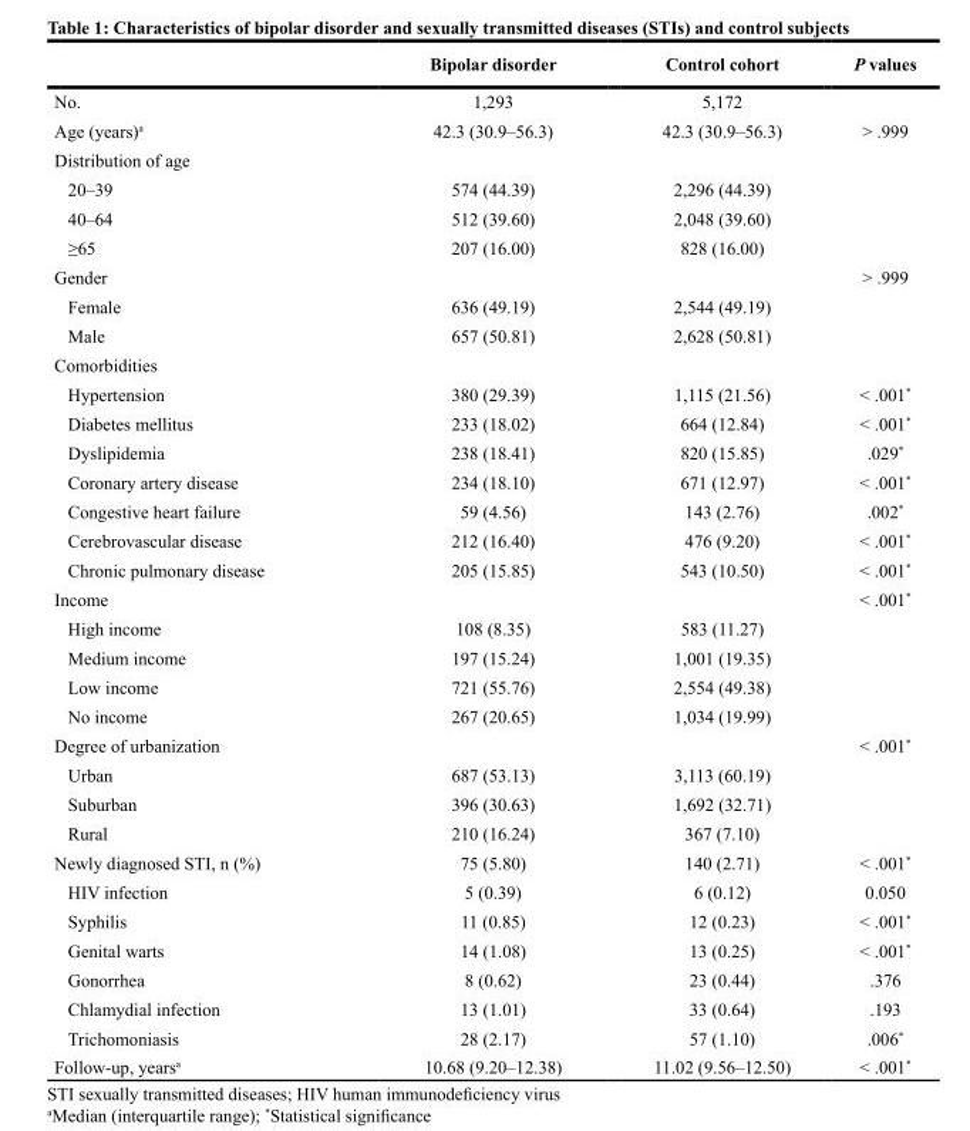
<table><thead><tr><td></td><td>Bipolar disorder</td><td>Control cohort</td><td>P values</td></tr></thead><tbody><tr><td>No.</td><td>1,293</td><td>5,172</td><td></td></tr><tr><td>Age (years)<sup>a</sup></td><td>42.3 (30.9–56.3)</td><td>42.3 (30.9–56.3)</td><td>&gt; .999</td></tr><tr><td colspan="4">Distribution of age</td></tr><tr><td>20–39</td><td>574 (44.39)</td><td>2,296 (44.39)</td><td></td></tr><tr><td>40–64</td><td>512 (39.60)</td><td>2,048 (39.60)</td><td></td></tr><tr><td>≥65</td><td>207 (16.00)</td><td>828 (16.00)</td><td></td></tr><tr><td>Gender</td><td></td><td></td><td>&gt; .999</td></tr><tr><td>Female</td><td>636 (49.19)</td><td>2,544 (49.19)</td><td></td></tr><tr><td>Male</td><td>657 (50.81)</td><td>2,628 (50.81)</td><td></td></tr><tr><td colspan="4">Comorbidities</td></tr><tr><td>Hypertension</td><td>380 (29.39)</td><td>1,115 (21.56)</td><td>&lt; .001*</td></tr><tr><td>Diabetes mellitus</td><td>233 (18.02)</td><td>664 (12.84)</td><td>&lt; .001*</td></tr><tr><td>Dyslipidemia</td><td>238 (18.41)</td><td>820 (15.85)</td><td>.029*</td></tr><tr><td>Coronary artery disease</td><td>234 (18.10)</td><td>671 (12.97)</td><td>&lt; .001*</td></tr><tr><td>Congestive heart failure</td><td>59 (4.56)</td><td>143 (2.76)</td><td>.002*</td></tr><tr><td>Cerebrovascular disease</td><td>212 (16.40)</td><td>476 (9.20)</td><td>&lt; .001*</td></tr><tr><td>Chronic pulmonary disease</td><td>205 (15.85)</td><td>543 (10.50)</td><td>&lt; .001*</td></tr><tr><td>Income</td><td></td><td></td><td>&lt; .001*</td></tr><tr><td>High income</td><td>108 (8.35)</td><td>583 (11.27)</td><td></td></tr><tr><td>Medium income</td><td>197 (15.24)</td><td>1,001 (19.35)</td><td></td></tr><tr><td>Low income</td><td>721 (55.76)</td><td>2,554 (49.38)</td><td></td></tr><tr><td>No income</td><td>267 (20.65)</td><td>1,034 (19.99)</td><td></td></tr><tr><td>Degree of urbanization</td><td></td><td></td><td>&lt; .001*</td></tr><tr><td>Urban</td><td>687 (53.13)</td><td>3,113 (60.19)</td><td></td></tr><tr><td>Suburban</td><td>396 (30.63)</td><td>1,692 (32.71)</td><td></td></tr><tr><td>Rural</td><td>210 (16.24)</td><td>367 (7.10)</td><td></td></tr><tr><td>Newly diagnosed STI, n (%)</td><td>75 (5.80)</td><td>140 (2.71)</td><td>&lt; .001*</td></tr><tr><td>HIV infection</td><td>5 (0.39)</td><td>6 (0.12)</td><td>0.050</td></tr><tr><td>Syphilis</td><td>11 (0.85)</td><td>12 (0.23)</td><td>&lt; .001*</td></tr><tr><td>Genital warts</td><td>14 (1.08)</td><td>13 (0.25)</td><td>&lt; .001*</td></tr><tr><td>Gonorrhea</td><td>8 (0.62)</td><td>23 (0.44)</td><td>.376</td></tr><tr><td>Chlamydial infection</td><td>13 (1.01)</td><td>33 (0.64)</td><td>.193</td></tr><tr><td>Trichomoniasis</td><td>28 (2.17)</td><td>57 (1.10)</td><td>.006*</td></tr><tr><td>Follow-up, years<sup>a</sup></td><td>10.68 (9.20–12.38)</td><td>11.02 (9.56–12.50)</td><td>&lt; .001*</td></tr></tbody></table>